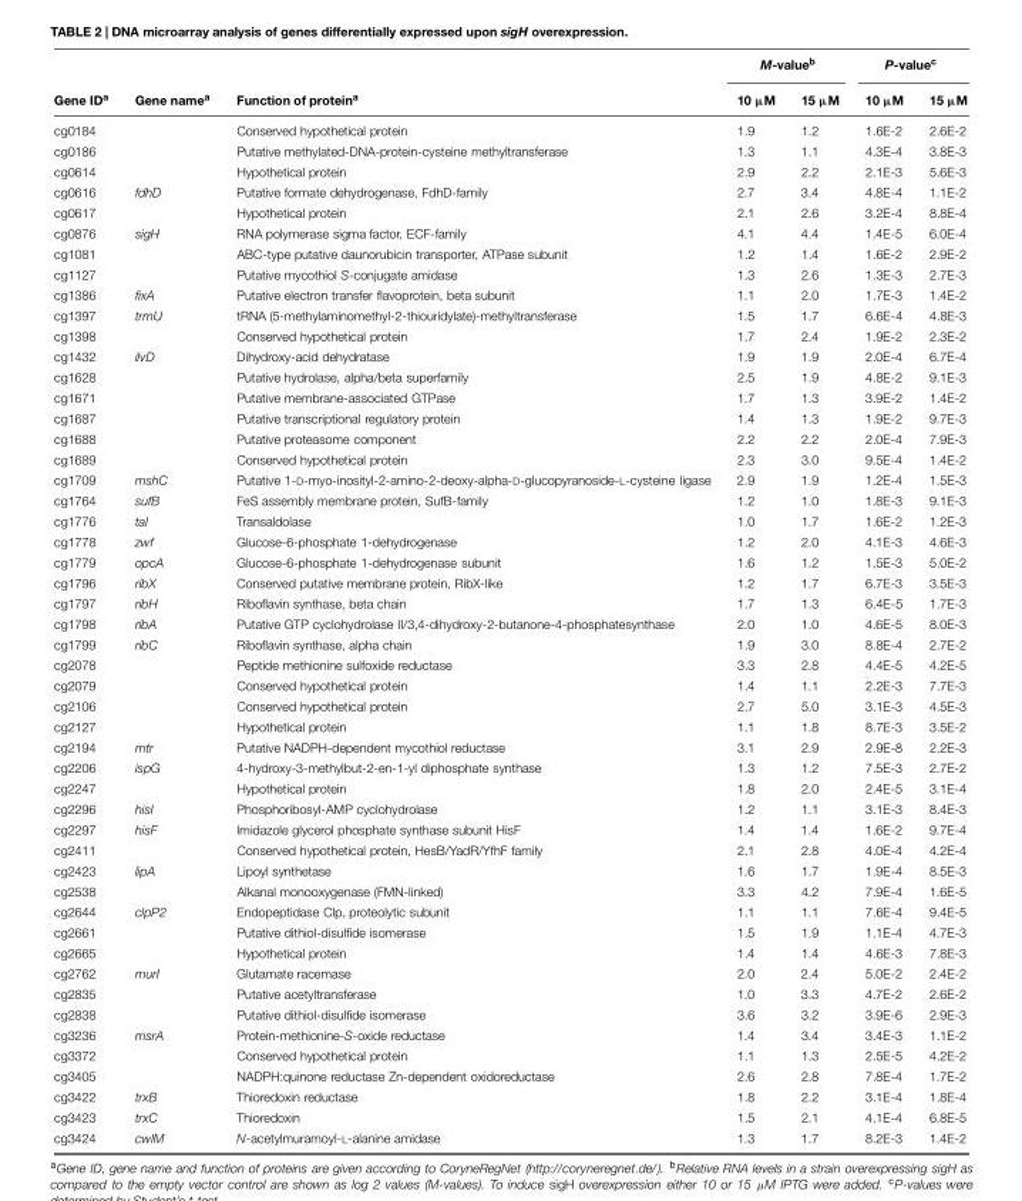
<table><thead><tr><td rowspan="2">Gene ID<sup>a</sup></td><td rowspan="2">Gene name<sup>a</sup></td><td rowspan="2">Function of protein<sup>a</sup></td><td colspan="2">M-value<sup>b</sup></td><td colspan="2">P-value<sup>c</sup></td></tr><tr><td>10 µM</td><td>15 µM</td><td>10 µM</td><td>15 µM</td></tr></thead><tbody><tr><td>cg0184</td><td></td><td>Conserved hypothetical protein</td><td>1.9</td><td>1.2</td><td>1.6E-2</td><td>2.6E-2</td></tr><tr><td>cg0186</td><td></td><td>Putative methylated-DNA-protein-cysteine methyltransferase</td><td>1.3</td><td>1.1</td><td>4.3E-4</td><td>3.8E-3</td></tr><tr><td>cg0614</td><td></td><td>Hypothetical protein</td><td>2.9</td><td>2.2</td><td>2.1E-3</td><td>5.6E-3</td></tr><tr><td>cg0616</td><td>fdhD</td><td>Putative formate dehydrogenase, FdhD-family</td><td>2.7</td><td>3.4</td><td>4.8E-4</td><td>1.1E-2</td></tr><tr><td>cg0617</td><td></td><td>Hypothetical protein</td><td>2.1</td><td>2.6</td><td>3.2E-4</td><td>8.8E-4</td></tr><tr><td>cg0876</td><td>sigH</td><td>RNA polymerase sigma factor, ECF-family</td><td>4.1</td><td>4.4</td><td>1.4E-5</td><td>6.0E-4</td></tr><tr><td>cg1081</td><td></td><td>ABC-type putative daunorubicin transporter, ATPase subunit</td><td>1.2</td><td>1.4</td><td>1.6E-2</td><td>2.9E-2</td></tr><tr><td>cg1127</td><td></td><td>Putative mycothiol S-conjugate amidase</td><td>1.3</td><td>2.6</td><td>1.3E-3</td><td>2.7E-3</td></tr><tr><td>cg1386</td><td>fixA</td><td>Putative electron transfer flavoprotein, beta subunit</td><td>1.1</td><td>2.0</td><td>1.7E-3</td><td>1.4E-2</td></tr><tr><td>cg1397</td><td>trmU</td><td>tRNA (5-methylaminomethyl-2-thiouridylate)-methyltransferase</td><td>1.5</td><td>1.7</td><td>6.6E-4</td><td>4.8E-3</td></tr><tr><td>cg1398</td><td></td><td>Conserved hypothetical protein</td><td>1.7</td><td>2.4</td><td>1.9E-2</td><td>2.3E-2</td></tr><tr><td>cg1432</td><td>ilvD</td><td>Dihydroxy-acid dehydratase</td><td>1.9</td><td>1.9</td><td>2.0E-4</td><td>6.7E-4</td></tr><tr><td>cg1628</td><td></td><td>Putative hydrolase, alpha/beta superfamily</td><td>2.5</td><td>1.9</td><td>4.8E-2</td><td>9.1E-3</td></tr><tr><td>cg1671</td><td></td><td>Putative membrane-associated GTPase</td><td>1.7</td><td>1.3</td><td>3.9E-2</td><td>1.4E-2</td></tr><tr><td>cg1687</td><td></td><td>Putative transcriptional regulatory protein</td><td>1.4</td><td>1.3</td><td>1.9E-2</td><td>9.7E-3</td></tr><tr><td>cg1688</td><td></td><td>Putative proteasome component</td><td>2.2</td><td>2.2</td><td>2.0E-4</td><td>7.9E-3</td></tr><tr><td>cg1689</td><td></td><td>Conserved hypothetical protein</td><td>2.3</td><td>3.0</td><td>9.5E-4</td><td>1.4E-2</td></tr><tr><td>cg1709</td><td>mshC</td><td>Putative 1-D-myo-inosityl-2-amino-2-deoxy-alpha-D-glucopyranoside-L-cysteine ligase</td><td>2.9</td><td>1.9</td><td>1.2E-4</td><td>1.5E-3</td></tr><tr><td>cg1764</td><td>sufB</td><td>FeS assembly membrane protein, SufB-family</td><td>1.2</td><td>1.0</td><td>1.8E-3</td><td>9.1E-3</td></tr><tr><td>cg1776</td><td>tal</td><td>Transaldolase</td><td>1.0</td><td>1.7</td><td>1.6E-2</td><td>1.2E-3</td></tr><tr><td>cg1778</td><td>zwf</td><td>Glucose-6-phosphate 1-dehydrogenase</td><td>1.2</td><td>2.0</td><td>4.1E-3</td><td>4.6E-3</td></tr><tr><td>cg1779</td><td>opcA</td><td>Glucose-6-phosphate 1-dehydrogenase subunit</td><td>1.6</td><td>1.2</td><td>1.5E-3</td><td>5.0E-2</td></tr><tr><td>cg1796</td><td>ribX</td><td>Conserved putative membrane protein, RibX-like</td><td>1.2</td><td>1.7</td><td>6.7E-3</td><td>3.5E-3</td></tr><tr><td>cg1797</td><td>ribH</td><td>Riboflavin synthase, beta chain</td><td>1.7</td><td>1.3</td><td>6.4E-5</td><td>1.7E-3</td></tr><tr><td>cg1798</td><td>ribA</td><td>Putative GTP cyclohydrolase II/3,4-dihydroxy-2-butanone-4-phosphatesynthase</td><td>2.0</td><td>1.0</td><td>4.6E-5</td><td>8.0E-3</td></tr><tr><td>cg1799</td><td>ribC</td><td>Riboflavin synthase, alpha chain</td><td>1.9</td><td>3.0</td><td>8.8E-4</td><td>2.7E-2</td></tr><tr><td>cg2078</td><td></td><td>Peptide methionine sulfoxide reductase</td><td>3.3</td><td>2.8</td><td>4.4E-5</td><td>4.2E-5</td></tr><tr><td>cg2079</td><td></td><td>Conserved hypothetical protein</td><td>1.4</td><td>1.1</td><td>2.2E-3</td><td>7.7E-3</td></tr><tr><td>cg2106</td><td></td><td>Conserved hypothetical protein</td><td>2.7</td><td>5.0</td><td>3.1E-3</td><td>4.5E-3</td></tr><tr><td>cg2127</td><td></td><td>Hypothetical protein</td><td>1.1</td><td>1.8</td><td>8.7E-3</td><td>3.5E-2</td></tr><tr><td>cg2194</td><td>mtr</td><td>Putative NADPH-dependent mycothiol reductase</td><td>3.1</td><td>2.9</td><td>2.9E-8</td><td>2.2E-3</td></tr><tr><td>cg2206</td><td>ispG</td><td>4-hydroxy-3-methylbut-2-en-1-yl diphosphate synthase</td><td>1.3</td><td>1.2</td><td>7.5E-3</td><td>2.7E-2</td></tr><tr><td>cg2247</td><td></td><td>Hypothetical protein</td><td>1.8</td><td>2.0</td><td>2.4E-5</td><td>3.1E-4</td></tr><tr><td>cg2296</td><td>hisI</td><td>Phosphoribosyl-AMP cyclohydrolase</td><td>1.2</td><td>1.1</td><td>3.1E-3</td><td>8.4E-3</td></tr><tr><td>cg2297</td><td>hisF</td><td>Imidazole glycerol phosphate synthase subunit HisF</td><td>1.4</td><td>1.4</td><td>1.6E-2</td><td>9.7E-4</td></tr><tr><td>cg2411</td><td></td><td>Conserved hypothetical protein, HesB/YadR/YfhF family</td><td>2.1</td><td>2.8</td><td>4.0E-4</td><td>4.2E-4</td></tr><tr><td>cg2423</td><td>lipA</td><td>Lipoyl synthetase</td><td>1.6</td><td>1.7</td><td>1.9E-4</td><td>8.5E-3</td></tr><tr><td>cg2538</td><td></td><td>Alkanal monooxygenase (FMN-linked)</td><td>3.3</td><td>4.2</td><td>7.9E-4</td><td>1.6E-5</td></tr><tr><td>cg2644</td><td>clpP2</td><td>Endopeptidase Clp, proteolytic subunit</td><td>1.1</td><td>1.1</td><td>7.6E-4</td><td>9.4E-5</td></tr><tr><td>cg2661</td><td></td><td>Putative dithiol-disulfide isomerase</td><td>1.5</td><td>1.9</td><td>1.1E-4</td><td>4.7E-3</td></tr><tr><td>cg2665</td><td></td><td>Hypothetical protein</td><td>1.4</td><td>1.4</td><td>4.6E-3</td><td>7.8E-3</td></tr><tr><td>cg2762</td><td>murI</td><td>Glutamate racemase</td><td>2.0</td><td>2.4</td><td>5.0E-2</td><td>2.4E-2</td></tr><tr><td>cg2835</td><td></td><td>Putative acetyltransferase</td><td>1.0</td><td>3.3</td><td>4.7E-2</td><td>2.6E-2</td></tr><tr><td>cg2838</td><td></td><td>Putative dithiol-disulfide isomerase</td><td>3.6</td><td>3.2</td><td>3.9E-6</td><td>2.9E-3</td></tr><tr><td>cg3236</td><td>msrA</td><td>Protein-methionine-S-oxide reductase</td><td>1.4</td><td>3.4</td><td>3.4E-3</td><td>1.1E-2</td></tr><tr><td>cg3372</td><td></td><td>Conserved hypothetical protein</td><td>1.1</td><td>1.3</td><td>2.5E-5</td><td>4.2E-2</td></tr><tr><td>cg3405</td><td></td><td>NADPH:quinone reductase Zn-dependent oxidoreductase</td><td>2.6</td><td>2.8</td><td>7.8E-4</td><td>1.7E-2</td></tr><tr><td>cg3422</td><td>trxB</td><td>Thioredoxin reductase</td><td>1.8</td><td>2.2</td><td>3.1E-4</td><td>1.8E-4</td></tr><tr><td>cg3423</td><td>trxC</td><td>Thioredoxin</td><td>1.5</td><td>2.1</td><td>4.1E-4</td><td>6.8E-5</td></tr><tr><td>cg3424</td><td>cwlM</td><td>N-acetylmuramoyl-L-alanine amidase</td><td>1.3</td><td>1.7</td><td>8.2E-3</td><td>1.4E-2</td></tr></tbody></table>